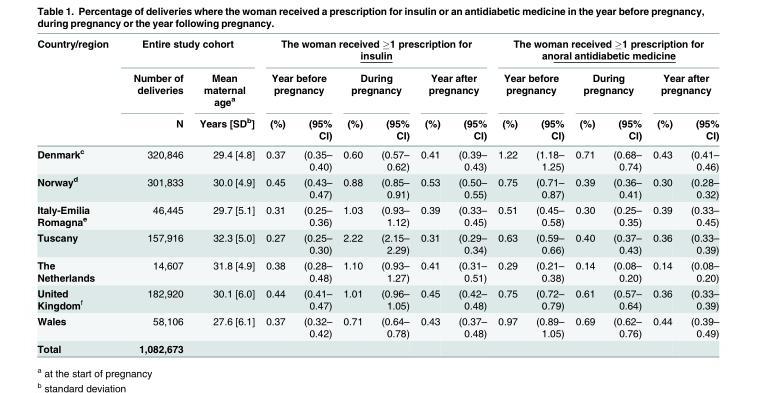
<table><thead><tr><td rowspan="3">Country/region</td><td colspan="2">Entire study cohort</td><td colspan="6">The woman received ≥1 prescription for insulin</td><td colspan="6">The woman received ≥1 prescription for anoral antidiabetic medicine</td></tr><tr><td rowspan="2">Number of deliveries N</td><td rowspan="2">Mean maternal age<sup>a</sup> Years [SD<sup>b</sup>]</td><td colspan="2">Year before pregnancy</td><td colspan="2">During pregnancy</td><td colspan="2">Year after pregnancy</td><td colspan="2">Year before pregnancy</td><td colspan="2">During pregnancy</td><td colspan="2">Year after pregnancy</td></tr><tr><td>(%)</td><td>(95% CI)</td><td>(%)</td><td>(95% CI)</td><td>(%)</td><td>(95% CI)</td><td>(%)</td><td>(95% CI)</td><td>(%)</td><td>(95% CI)</td><td>(%)</td><td>(95% CI)</td></tr></thead><tbody><tr><td>Denmark<sup>c</sup></td><td>320,846</td><td>29.4 [4.8]</td><td>0.37</td><td>(0.35– 0.40)</td><td>0.60</td><td>(0.57– 0.62)</td><td>0.41</td><td>(0.39– 0.43)</td><td>1.22</td><td>(1.18– 1.25)</td><td>0.71</td><td>(0.68– 0.74)</td><td>0.43</td><td>(0.41– 0.46)</td></tr><tr><td>Norway<sup>d</sup></td><td>301,833</td><td>30.0 [4.9]</td><td>0.45</td><td>(0.43– 0.47)</td><td>0.88</td><td>(0.85– 0.91)</td><td>0.53</td><td>(0.50– 0.55)</td><td>0.75</td><td>(0.71– 0.87)</td><td>0.39</td><td>(0.36– 0.41)</td><td>0.30</td><td>(0.28– 0.32)</td></tr><tr><td>Italy-Emilia Romagna<sup>e</sup></td><td>46,445</td><td>29.7 [5.1]</td><td>0.31</td><td>(0.25– 0.36)</td><td>1.03</td><td>(0.93– 1.12)</td><td>0.39</td><td>(0.33– 0.45)</td><td>0.51</td><td>(0.45– 0.58)</td><td>0.30</td><td>(0.25– 0.35)</td><td>0.39</td><td>(0.33– 0.45)</td></tr><tr><td>Tuscany</td><td>157,916</td><td>32.3 [5.0]</td><td>0.27</td><td>(0.25– 0.30)</td><td>2.22</td><td>(2.15– 2.29)</td><td>0.31</td><td>(0.29– 0.34)</td><td>0.63</td><td>(0.59– 0.66)</td><td>0.40</td><td>(0.37– 0.43)</td><td>0.36</td><td>(0.33– 0.39)</td></tr><tr><td>The Netherlands</td><td>14,607</td><td>31.8 [4.9]</td><td>0.38</td><td>(0.28– 0.48)</td><td>1.10</td><td>(0.93– 1.27)</td><td>0.41</td><td>(0.31– 0.51)</td><td>0.29</td><td>(0.21– 0.38)</td><td>0.14</td><td>(0.08– 0.20)</td><td>0.14</td><td>(0.08– 0.20)</td></tr><tr><td>United Kingdom<sup>f</sup></td><td>182,920</td><td>30.1 [6.0]</td><td>0.44</td><td>(0.41– 0.47)</td><td>1.01</td><td>(0.96– 1.05)</td><td>0.45</td><td>(0.42– 0.48)</td><td>0.75</td><td>(0.72– 0.79)</td><td>0.61</td><td>(0.57– 0.64)</td><td>0.36</td><td>(0.33– 0.39)</td></tr><tr><td>Wales</td><td>58,106</td><td>27.6 [6.1]</td><td>0.37</td><td>(0.32– 0.42)</td><td>0.71</td><td>(0.64– 0.78)</td><td>0.43</td><td>(0.37– 0.48)</td><td>0.97</td><td>(0.89– 1.05)</td><td>0.69</td><td>(0.62– 0.76)</td><td>0.44</td><td>(0.39– 0.49)</td></tr><tr><td>Total</td><td>1,082,673</td><td></td><td></td><td></td><td></td><td></td><td></td><td></td><td></td><td></td><td></td><td></td><td></td><td></td></tr></tbody></table>